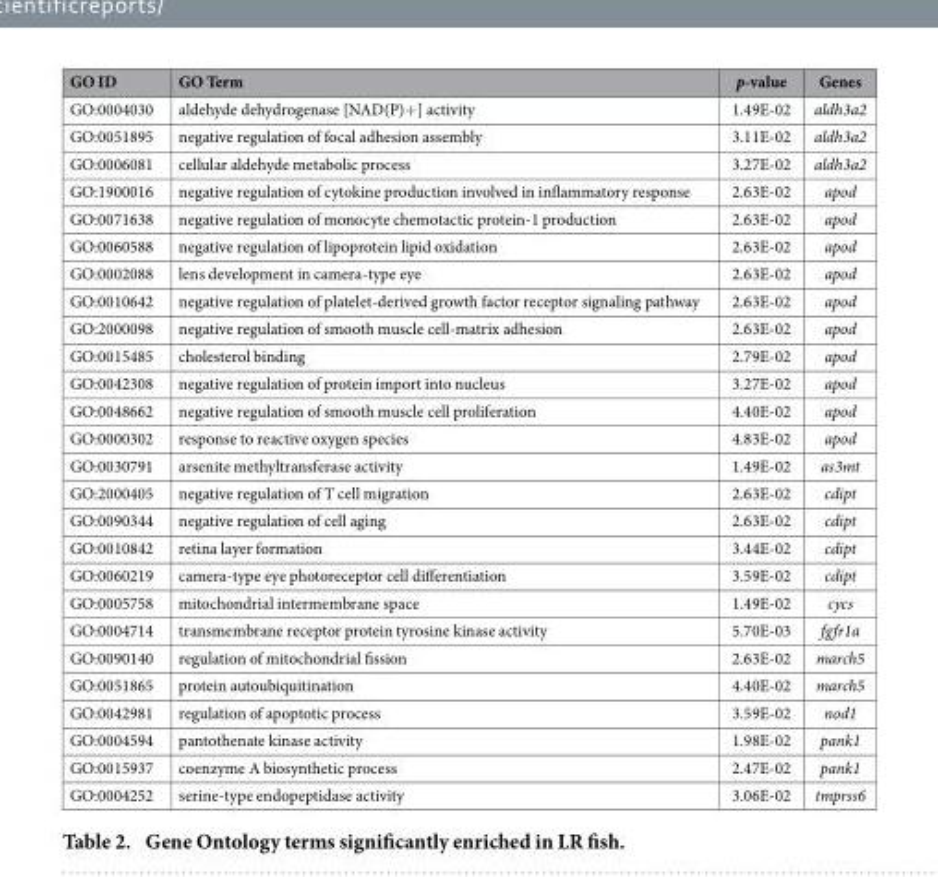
<table><thead><tr><td>GO ID</td><td>GO Term</td><td>p-value</td><td>Genes</td></tr></thead><tbody><tr><td>GO:0004030</td><td>aldehyde dehydrogenase [NAD(P)+ ] activity</td><td>1.49E-02</td><td>aldh3a2</td></tr><tr><td>GO:0051895</td><td>negative regulation of focal adhesion assembly</td><td>3.11E-02</td><td>aldh3a2</td></tr><tr><td>GO:0006081</td><td>cellular aldehyde metabolic process</td><td>3.27E-02</td><td>aldh3a2</td></tr><tr><td>GO:1900016</td><td>negative regulation of cytokine production involved in inflammatory response</td><td>2.63E-02</td><td>apod</td></tr><tr><td>GO:0071638</td><td>negative regulation of monocyte chemotactic protein-1 production</td><td>2.63E-02</td><td>apod</td></tr><tr><td>GO:0060588</td><td>negative regulation of lipoprotein lipid oxidation</td><td>2.63E-02</td><td>apod</td></tr><tr><td>GO:0002088</td><td>lens development in camera-type eye</td><td>2.63E-02</td><td>apod</td></tr><tr><td>GO:0010642</td><td>negative regulation of platelet-derived growth factor receptor signaling pathway</td><td>2.63E-02</td><td>apod</td></tr><tr><td>GO:2000098</td><td>negative regulation of smooth muscle cell-matrix adhesion</td><td>2.63E-02</td><td>apod</td></tr><tr><td>GO:0015485</td><td>cholesterol binding</td><td>2.79E-02</td><td>apod</td></tr><tr><td>GO:0042308</td><td>negative regulation of protein import into nucleus</td><td>3.27E-02</td><td>apod</td></tr><tr><td>GO:0048662</td><td>negative regulation of smooth muscle cell proliferation</td><td>4.40E-02</td><td>apod</td></tr><tr><td>GO:0000302</td><td>response to reactive oxygen species</td><td>4.83E-02</td><td>apod</td></tr><tr><td>GO:0030791</td><td>arsenite methyltransferase activity</td><td>1.49E-02</td><td>as3mt</td></tr><tr><td>GO:2000405</td><td>negative regulation of T cell migration</td><td>2.63E-02</td><td>cdipt</td></tr><tr><td>GO:0090344</td><td>negative regulation of cell aging</td><td>2.63E-02</td><td>cdipt</td></tr><tr><td>GO:0010842</td><td>retina layer formation</td><td>3.44E-02</td><td>cdipt</td></tr><tr><td>GO:0060219</td><td>camera-type eye photoreceptor cell differentiation</td><td>3.59E-02</td><td>cdipt</td></tr><tr><td>GO:0005758</td><td>mitochondrial intermembrane space</td><td>1.49E-02</td><td>cycs</td></tr><tr><td>GO:0004714</td><td>transmembrane receptor protein tyrosine kinase activity</td><td>5.70E-03</td><td>fgfr1a</td></tr><tr><td>GO:0090140</td><td>regulation of mitochondrial fission</td><td>2.63E-02</td><td>march5</td></tr><tr><td>GO:0051865</td><td>protein autoubiquitination</td><td>4.40E-02</td><td>march5</td></tr><tr><td>GO:0042981</td><td>regulation of apoptotic process</td><td>3.59E-02</td><td>nod1</td></tr><tr><td>GO:0004594</td><td>pantothenate kinase activity</td><td>1.98E-02</td><td>pank1</td></tr><tr><td>GO:0015937</td><td>coenzyme A biosynthetic process</td><td>2.47E-02</td><td>pank1</td></tr><tr><td>GO:0004252</td><td>serine-type endopeptidase activity</td><td>3.06E-02</td><td>tmprss6</td></tr></tbody></table>